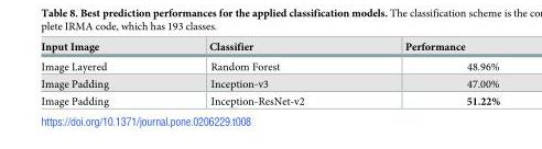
<table><thead><tr><td>Input Image</td><td>Classifier</td><td>Performance</td></tr></thead><tbody><tr><td>Image Layered</td><td>Random Forest</td><td>48.96%</td></tr><tr><td>Image Padding</td><td>Inception-v3</td><td>47.00%</td></tr><tr><td>Image Padding</td><td>Inception-ResNet-v2</td><td>51.22%</td></tr></tbody></table>